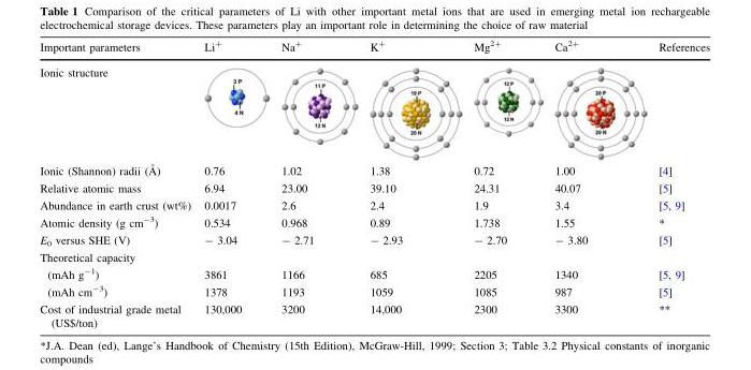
<table><thead><tr><td>Important parameters</td><td>Li<sup>+</sup></td><td>Na<sup>+</sup></td><td>K<sup>+</sup></td><td>Mg<sup>2+</sup></td><td>Ca<sup>2+</sup></td><td>References</td></tr></thead><tbody><tr><td colspan="7">Ionic structure</td></tr><tr><td>Ionic (Shannon) radii (A˚ )</td><td>0.76</td><td>1.02</td><td>1.38</td><td>0.72</td><td>1.00</td><td>[4]</td></tr><tr><td>Relative atomic mass</td><td>6.94</td><td>23.00</td><td>39.10</td><td>24.31</td><td>40.07</td><td>[5]</td></tr><tr><td>Abundance in earth crust (wt%)</td><td>0.0017</td><td>2.6</td><td>2.4</td><td>1.9</td><td>3.4</td><td>[5, 9]</td></tr><tr><td>Atomic density (g cm<sup>-3</sup>)</td><td>0.534</td><td>0.968</td><td>0.89</td><td>1.738</td><td>1.55</td><td>*</td></tr><tr><td>E<sub>0</sub> versus SHE (V)</td><td>- 3.04</td><td>- 2.71</td><td>- 2.93</td><td>- 2.70</td><td>- 3.80</td><td>[5]</td></tr><tr><td colspan="7">Theoretical capacity</td></tr><tr><td>(mAh g<sup>-1</sup>)</td><td>3861</td><td>1166</td><td>685</td><td>2205</td><td>1340</td><td>[5, 9]</td></tr><tr><td>(mAh cm<sup>-3</sup>)</td><td>1378</td><td>1193</td><td>1059</td><td>1085</td><td>987</td><td>[5]</td></tr><tr><td>Cost of industrial grade metal (US$/ton)</td><td>130,000</td><td>3200</td><td>14,000</td><td>2300</td><td>3300</td><td>**</td></tr></tbody></table>